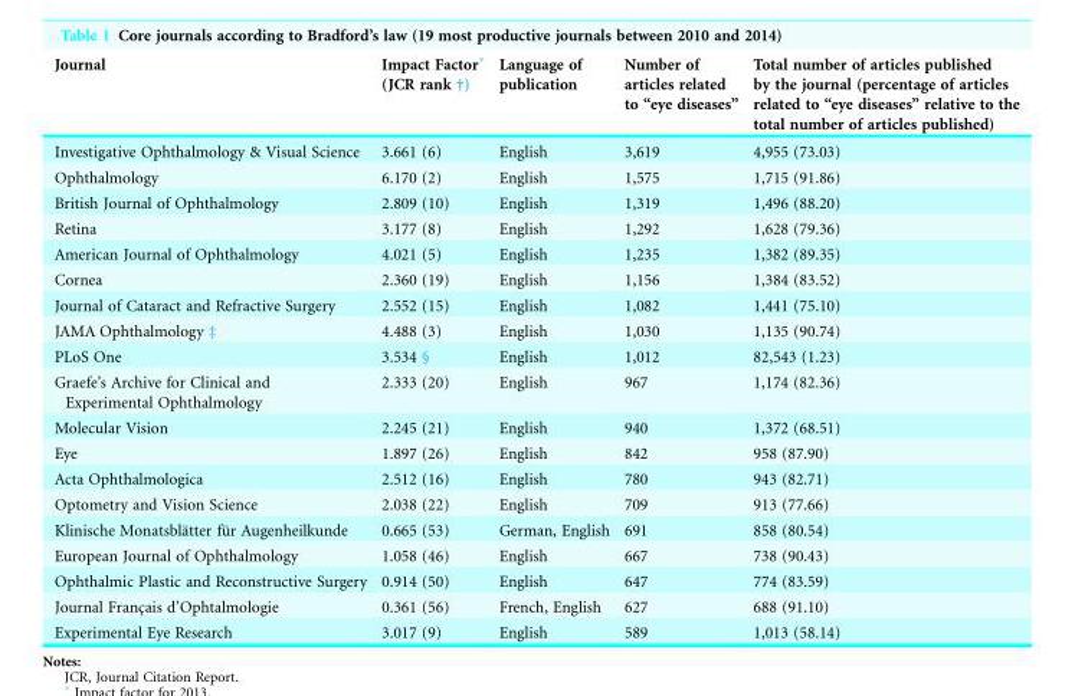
<table><thead><tr><td>Journal</td><td>Impact Factor* (JCR rank †)</td><td>Language of publication</td><td>Number of articles related to “eye diseases”</td><td>Total number of articles published by the journal (percentage of articles related to “eye diseases” relative to the total number of articles published)</td></tr></thead><tbody><tr><td>Investigative Ophthalmology &amp; Visual Science</td><td>3.661 (6)</td><td>English</td><td>3,619</td><td>4,955 (73.03)</td></tr><tr><td>Ophthalmology</td><td>6.170 (2)</td><td>English</td><td>1,575</td><td>1,715 (91.86)</td></tr><tr><td>British Journal of Ophthalmology</td><td>2.809 (10)</td><td>English</td><td>1,319</td><td>1,496 (88.20)</td></tr><tr><td>Retina</td><td>3.177 (8)</td><td>English</td><td>1,292</td><td>1,628 (79.36)</td></tr><tr><td>American Journal of Ophthalmology</td><td>4.021 (5)</td><td>English</td><td>1,235</td><td>1,382 (89.35)</td></tr><tr><td>Cornea</td><td>2.360 (19)</td><td>English</td><td>1,156</td><td>1,384 (83.52)</td></tr><tr><td>Journal of Cataract and Refractive Surgery</td><td>2.552 (15)</td><td>English</td><td>1,082</td><td>1,441 (75.10)</td></tr><tr><td>JAMA Ophthalmology ‡</td><td>4.488 (3)</td><td>English</td><td>1,030</td><td>1,135 (90.74)</td></tr><tr><td>PLoS One</td><td>3.534 §</td><td>English</td><td>1,012</td><td>82,543 (1.23)</td></tr><tr><td>Graefe’s Archive for Clinical and Experimental Ophthalmology</td><td>2.333 (20)</td><td>English</td><td>967</td><td>1,174 (82.36)</td></tr><tr><td>Molecular Vision</td><td>2.245 (21)</td><td>English</td><td>940</td><td>1,372 (68.51)</td></tr><tr><td>Eye</td><td>1.897 (26)</td><td>English</td><td>842</td><td>958 (87.90)</td></tr><tr><td>Acta Ophthalmologica</td><td>2.512 (16)</td><td>English</td><td>780</td><td>943 (82.71)</td></tr><tr><td>Optometry and Vision Science</td><td>2.038 (22)</td><td>English</td><td>709</td><td>913 (77.66)</td></tr><tr><td>Klinische Monatsbla¨tter fu¨r Augenheilkunde</td><td>0.665 (53)</td><td>German, English</td><td>691</td><td>858 (80.54)</td></tr><tr><td>European Journal of Ophthalmology</td><td>1.058 (46)</td><td>English</td><td>667</td><td>738 (90.43)</td></tr><tr><td>Ophthalmic Plastic and Reconstructive Surgery</td><td>0.914 (50)</td><td>English</td><td>647</td><td>774 (83.59)</td></tr><tr><td>Journal Franc¸ais d’Ophtalmologie</td><td>0.361 (56)</td><td>French, English</td><td>627</td><td>688 (91.10)</td></tr><tr><td>Experimental Eye Research</td><td>3.017 (9)</td><td>English</td><td>589</td><td>1,013 (58.14)</td></tr></tbody></table>